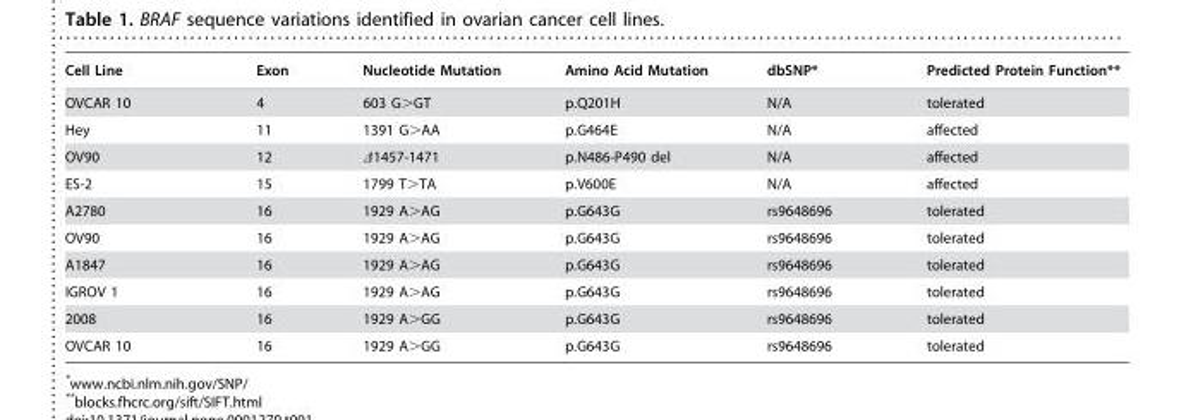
<table><thead><tr><td>Cell Line</td><td>Exon</td><td>Nucleotide Mutation</td><td>Amino Acid Mutation</td><td>dbSNP*</td><td>Predicted Protein Function**</td></tr></thead><tbody><tr><td>OVCAR 10</td><td>4</td><td>603 G&gt;GT</td><td>p.Q201H</td><td>N/A</td><td>tolerated</td></tr><tr><td>Hey</td><td>11</td><td>1391 G&gt;AA</td><td>p.G464E</td><td>N/A</td><td>affected</td></tr><tr><td>OV90</td><td>12</td><td>Δ1457-1471</td><td>p.N486-P490 del</td><td>N/A</td><td>affected</td></tr><tr><td>ES-2</td><td>15</td><td>1799 T&gt;TA</td><td>p.V600E</td><td>N/A</td><td>affected</td></tr><tr><td>A2780</td><td>16</td><td>1929 A&gt;AG</td><td>p.G643G</td><td>rs9648696</td><td>tolerated</td></tr><tr><td>OV90</td><td>16</td><td>1929 A&gt;AG</td><td>p.G643G</td><td>rs9648696</td><td>tolerated</td></tr><tr><td>A1847</td><td>16</td><td>1929 A&gt;AG</td><td>p.G643G</td><td>rs9648696</td><td>tolerated</td></tr><tr><td>IGROV 1</td><td>16</td><td>1929 A&gt;AG</td><td>p.G643G</td><td>rs9648696</td><td>tolerated</td></tr><tr><td>2008</td><td>16</td><td>1929 A&gt;GG</td><td>p.G643G</td><td>rs9648696</td><td>tolerated</td></tr><tr><td>OVCAR 10</td><td>16</td><td>1929 A&gt;GG</td><td>p.G643G</td><td>rs9648696</td><td>tolerated</td></tr></tbody></table>